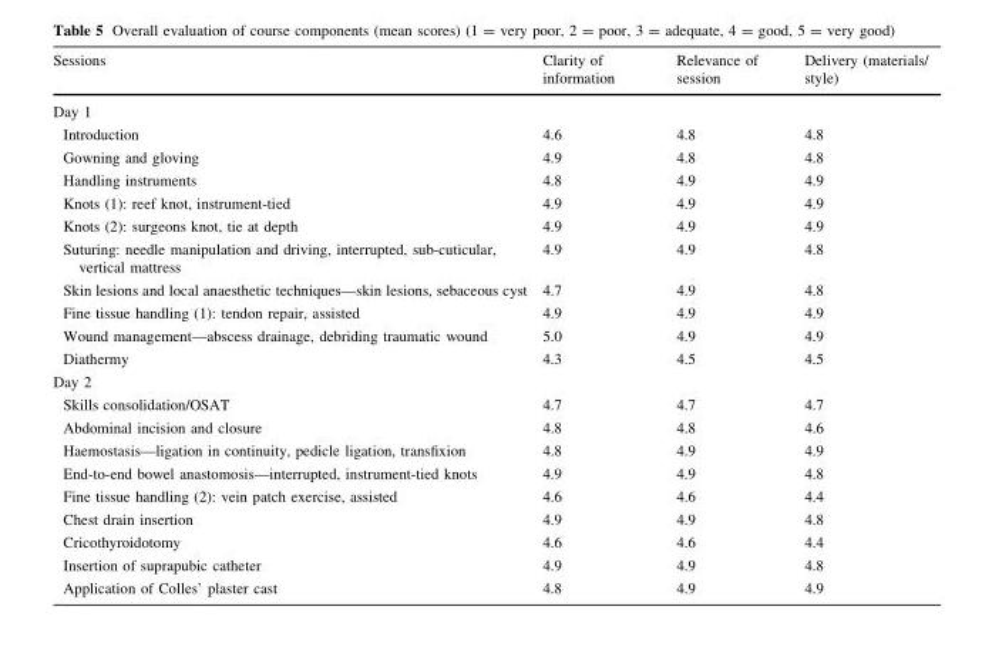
<table><thead><tr><td>Sessions</td><td>Clarity of information</td><td>Relevance of session</td><td>Delivery (materials/ style)</td></tr></thead><tbody><tr><td colspan="4">Day 1</td></tr><tr><td>Introduction</td><td>4.6</td><td>4.8</td><td>4.8</td></tr><tr><td>Gowning and gloving</td><td>4.9</td><td>4.8</td><td>4.8</td></tr><tr><td>Handling instruments</td><td>4.8</td><td>4.9</td><td>4.9</td></tr><tr><td>Knots (1): reef knot, instrument-tied</td><td>4.9</td><td>4.9</td><td>4.9</td></tr><tr><td>Knots (2): surgeons knot, tie at depth</td><td>4.9</td><td>4.9</td><td>4.9</td></tr><tr><td>Suturing: needle manipulation and driving, interrupted, sub-cuticular, vertical mattress</td><td>4.9</td><td>4.9</td><td>4.8</td></tr><tr><td>Skin lesions and local anaesthetic techniques—skin lesions, sebaceous cyst</td><td>4.7</td><td>4.9</td><td>4.8</td></tr><tr><td>Fine tissue handling (1): tendon repair, assisted</td><td>4.9</td><td>4.9</td><td>4.9</td></tr><tr><td>Wound management—abscess drainage, debriding traumatic wound</td><td>5.0</td><td>4.9</td><td>4.9</td></tr><tr><td>Diathermy</td><td>4.3</td><td>4.5</td><td>4.5</td></tr><tr><td colspan="4">Day 2</td></tr><tr><td>Skills consolidation/OSAT</td><td>4.7</td><td>4.7</td><td>4.7</td></tr><tr><td>Abdominal incision and closure</td><td>4.8</td><td>4.8</td><td>4.6</td></tr><tr><td>Haemostasis—ligation in continuity, pedicle ligation, transfixion</td><td>4.8</td><td>4.9</td><td>4.9</td></tr><tr><td>End-to-end bowel anastomosis—interrupted, instrument-tied knots</td><td>4.9</td><td>4.9</td><td>4.8</td></tr><tr><td>Fine tissue handling (2): vein patch exercise, assisted</td><td>4.6</td><td>4.6</td><td>4.4</td></tr><tr><td>Chest drain insertion</td><td>4.9</td><td>4.9</td><td>4.8</td></tr><tr><td>Cricothyroidotomy</td><td>4.6</td><td>4.6</td><td>4.4</td></tr><tr><td>Insertion of suprapubic catheter</td><td>4.9</td><td>4.9</td><td>4.8</td></tr><tr><td>Application of Colles’ plaster cast</td><td>4.8</td><td>4.9</td><td>4.9</td></tr></tbody></table>